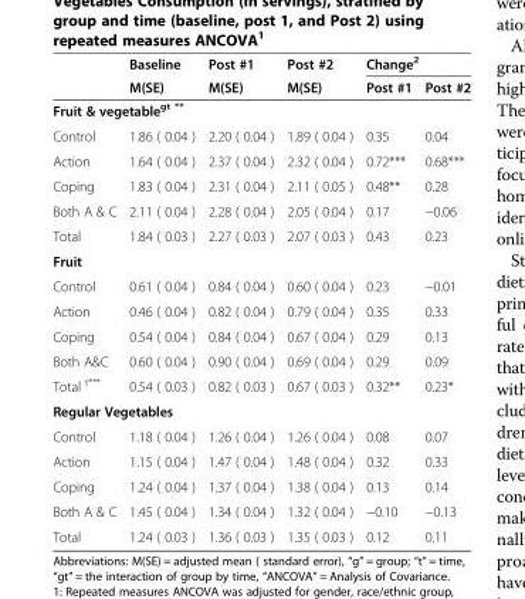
<table><thead><tr><td rowspan="2"></td><td rowspan="2">Baseline M(SE)</td><td rowspan="2">Post #1 M(SE)</td><td rowspan="2">Post #2 M(SE)</td><td colspan="2">Change<sup>2</sup></td></tr><tr><td>Post #1</td><td>Post #2</td></tr></thead><tbody><tr><td colspan="6">Fruit &amp; vegetable<sup>gt **</sup></td></tr><tr><td>Control</td><td>1.86 ( 0.04 )</td><td>2.20 ( 0.04 )</td><td>1.89 ( 0.04 )</td><td>0.35</td><td>0.04</td></tr><tr><td>Action</td><td>1.64 ( 0.04 )</td><td>2.37 ( 0.04 )</td><td>2.32 ( 0.04 )</td><td>0.72***</td><td>0.68***</td></tr><tr><td>Coping</td><td>1.83 ( 0.04 )</td><td>2.31 ( 0.04 )</td><td>2.11 ( 0.05 )</td><td>0.48**</td><td>0.28</td></tr><tr><td>Both A &amp; C</td><td>2.11 ( 0.04 )</td><td>2.28 ( 0.04 )</td><td>2.05 ( 0.04 )</td><td>0.17</td><td>−0.06</td></tr><tr><td>Total</td><td>1.84 ( 0.03 )</td><td>2.27 ( 0.03 )</td><td>2.07 ( 0.03 )</td><td>0.43</td><td>0.23</td></tr><tr><td colspan="6">Fruit</td></tr><tr><td>Control</td><td>0.61 ( 0.04 )</td><td>0.84 ( 0.04 )</td><td>0.60 ( 0.04 )</td><td>0.23</td><td>−0.01</td></tr><tr><td>Action</td><td>0.46 ( 0.04 )</td><td>0.82 ( 0.04 )</td><td>0.79 ( 0.04 )</td><td>0.35</td><td>0.33</td></tr><tr><td>Coping</td><td>0.54 ( 0.04 )</td><td>0.84 ( 0.04 )</td><td>0.67 ( 0.04 )</td><td>0.29</td><td>0.13</td></tr><tr><td>Both A&amp;C</td><td>0.60 ( 0.04 )</td><td>0.90 ( 0.04 )</td><td>0.69 ( 0.04 )</td><td>0.29</td><td>0.09</td></tr><tr><td>Total <sup>t***</sup></td><td>0.54 ( 0.03 )</td><td>0.82 ( 0.03 )</td><td>0.67 ( 0.03 )</td><td>0.32**</td><td>0.23*</td></tr><tr><td colspan="6">Regular Vegetables</td></tr><tr><td>Control</td><td>1.18 ( 0.04 )</td><td>1.26 ( 0.04 )</td><td>1.26 ( 0.04 )</td><td>0.08</td><td>0.07</td></tr><tr><td>Action</td><td>1.15 ( 0.04 )</td><td>1.47 ( 0.04 )</td><td>1.48 ( 0.04 )</td><td>0.32</td><td>0.33</td></tr><tr><td>Coping</td><td>1.24 ( 0.04 )</td><td>1.37 ( 0.04 )</td><td>1.38 ( 0.04 )</td><td>0.13</td><td>0.14</td></tr><tr><td>Both A &amp; C</td><td>1.45 ( 0.04 )</td><td>1.34 ( 0.04 )</td><td>1.32 ( 0.04 )</td><td>−0.10</td><td>−0.13</td></tr><tr><td>Total</td><td>1.24 ( 0.03 )</td><td>1.36 ( 0.03 )</td><td>1.35 ( 0.03 )</td><td>0.12</td><td>0.11</td></tr></tbody></table>